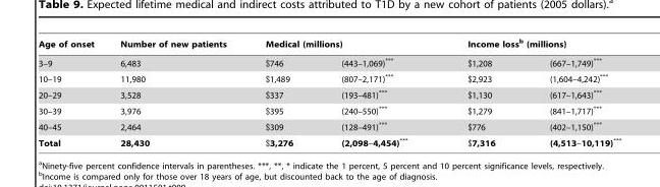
<table><thead><tr><td rowspan="2">Age of onset 3–9</td><td rowspan="2">Number of new patients 6,483</td><td colspan="2">Medical (millions)</td><td colspan="2">Income loss<sup>b</sup> (millions)</td></tr><tr><td>$746</td><td>(443–1,069)***</td><td>$1,208</td><td>(667–1,749)***</td></tr></thead><tbody><tr><td>10–19</td><td>11,980</td><td>$1,489</td><td>(807–2,171)***</td><td>$2,923</td><td>(1,604–4,242)***</td></tr><tr><td>20–29</td><td>3,528</td><td>$337</td><td>(193–481)***</td><td>$1,130</td><td>(617–1,643)***</td></tr><tr><td>30–39</td><td>3,976</td><td>$395</td><td>(240–550)***</td><td>$1,279</td><td>(841–1,717)***</td></tr><tr><td>40–45</td><td>2,464</td><td>$309</td><td>(128–491)***</td><td>$776</td><td>(402–1,150)***</td></tr><tr><td>Total</td><td>28,430</td><td>$3,276</td><td>(2,098–4,454)***</td><td>$7,316</td><td>(4,513–10,119)***</td></tr></tbody></table>